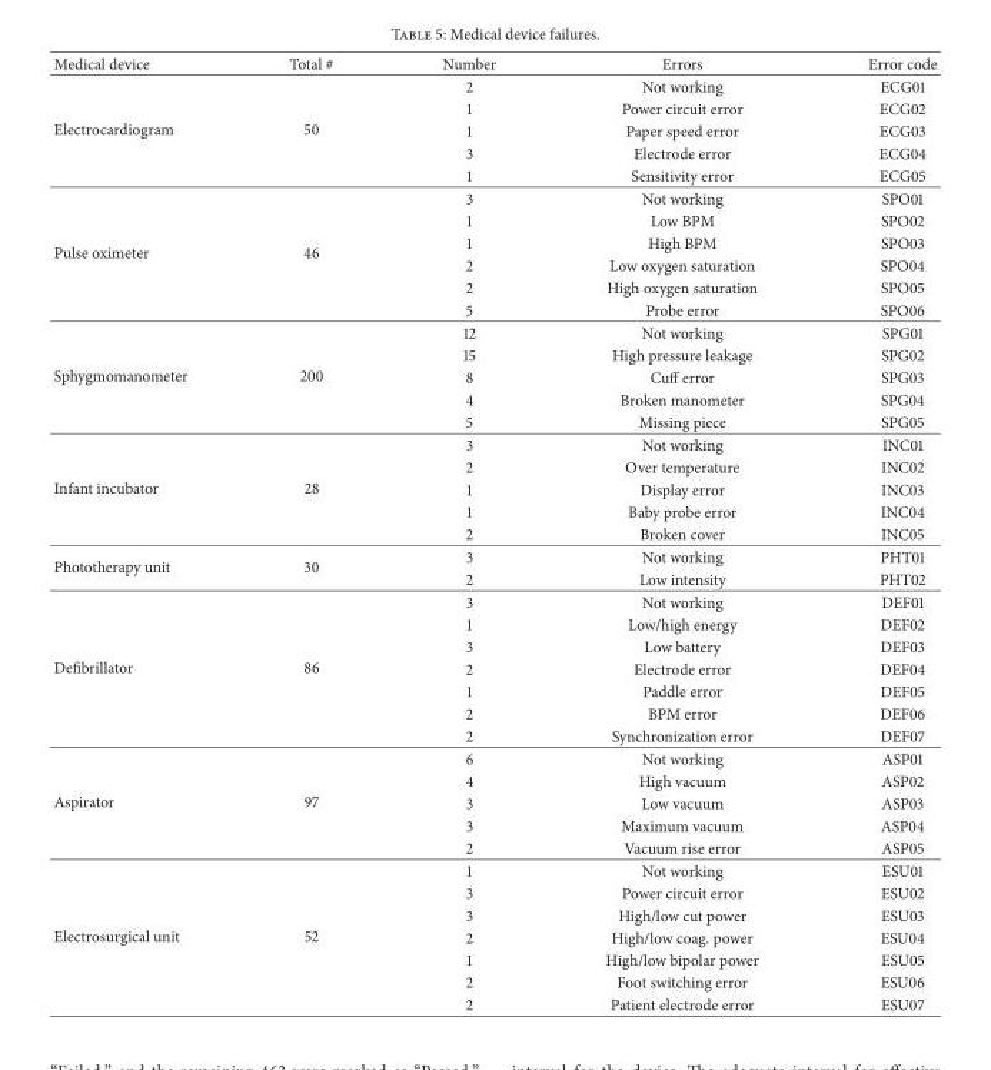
<table><thead><tr><td>Medical device</td><td>Total #</td><td>Number</td><td>Errors</td><td>Error code</td></tr></thead><tbody><tr><td rowspan="5">Electrocardiogram</td><td rowspan="5">50</td><td>2</td><td>Not working</td><td>ECG01</td></tr><tr><td>1</td><td>Power circuit error</td><td>ECG02</td></tr><tr><td>1</td><td>Paper speed error</td><td>ECG03</td></tr><tr><td>3</td><td>Electrode error</td><td>ECG04</td></tr><tr><td>1</td><td>Sensitivity error</td><td>ECG05</td></tr><tr><td rowspan="6">Pulse oximeter</td><td rowspan="6">46</td><td>3</td><td>Not working</td><td>SPO01</td></tr><tr><td>1</td><td>Low BPM</td><td>SPO02</td></tr><tr><td>1</td><td>High BPM</td><td>SPO03</td></tr><tr><td>2</td><td>Low oxygen saturation</td><td>SPO04</td></tr><tr><td>2</td><td>High oxygen saturation</td><td>SPO05</td></tr><tr><td>5</td><td>Probe error</td><td>SPO06</td></tr><tr><td rowspan="5">Sphygmomanometer</td><td rowspan="5">200</td><td>12</td><td>Not working</td><td>SPG01</td></tr><tr><td>15</td><td>High pressure leakage</td><td>SPG02</td></tr><tr><td>8</td><td>Cuff error</td><td>SPG03</td></tr><tr><td>4</td><td>Broken manometer</td><td>SPG04</td></tr><tr><td>5</td><td>Missing piece</td><td>SPG05</td></tr><tr><td rowspan="5">Infant incubator</td><td rowspan="5">28</td><td>3</td><td>Not working</td><td>INC01</td></tr><tr><td>2</td><td>Over temperature</td><td>INC02</td></tr><tr><td>1</td><td>Display error</td><td>INC03</td></tr><tr><td>1</td><td>Baby probe error</td><td>INC04</td></tr><tr><td>2</td><td>Broken cover</td><td>INC05</td></tr><tr><td rowspan="2">Phototherapy unit</td><td rowspan="2">30</td><td>3</td><td>Not working</td><td>PHT01</td></tr><tr><td>2</td><td>Low intensity</td><td>PHT02</td></tr><tr><td rowspan="7">Defibrillator</td><td rowspan="7">86</td><td>3</td><td>Not working</td><td>DEF01</td></tr><tr><td>1</td><td>Low/high energy</td><td>DEF02</td></tr><tr><td>3</td><td>Low battery</td><td>DEF03</td></tr><tr><td>2</td><td>Electrode error</td><td>DEF04</td></tr><tr><td>1</td><td>Paddle error</td><td>DEF05</td></tr><tr><td>2</td><td>BPM error</td><td>DEF06</td></tr><tr><td>2</td><td>Synchronization error</td><td>DEF07</td></tr><tr><td rowspan="5">Aspirator</td><td rowspan="5">97</td><td>6</td><td>Not working</td><td>ASP01</td></tr><tr><td>4</td><td>High vacuum</td><td>ASP02</td></tr><tr><td>3</td><td>Low vacuum</td><td>ASP03</td></tr><tr><td>3</td><td>Maximum vacuum</td><td>ASP04</td></tr><tr><td>2</td><td>Vacuum rise error</td><td>ASP05</td></tr><tr><td rowspan="7">Electrosurgical unit</td><td rowspan="7">52</td><td>1</td><td>Not working</td><td>ESU01</td></tr><tr><td>3</td><td>Power circuit error</td><td>ESU02</td></tr><tr><td>3</td><td>High/low cut power</td><td>ESU03</td></tr><tr><td>2</td><td>High/low coag. power</td><td>ESU04</td></tr><tr><td>1</td><td>High/low bipolar power</td><td>ESU05</td></tr><tr><td>2</td><td>Foot switching error</td><td>ESU06</td></tr><tr><td>2</td><td>Patient electrode error</td><td>ESU07</td></tr></tbody></table>